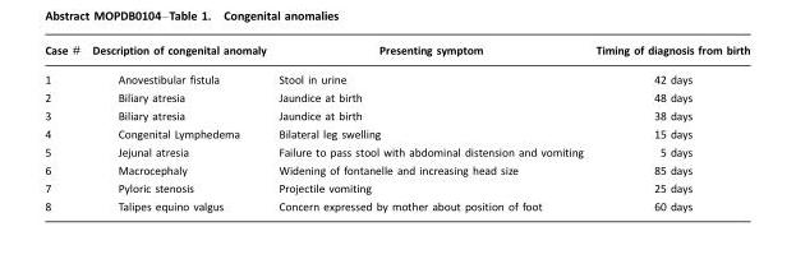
<table><thead><tr><td>Case #</td><td>Description of congenital anomaly</td><td>Presenting symptom</td><td>Timing of diagnosis from birth</td></tr></thead><tbody><tr><td>1</td><td>Anovestibular fistula</td><td>Stool in urine</td><td>42 days</td></tr><tr><td>2</td><td>Biliary atresia</td><td>Jaundice at birth</td><td>48 days</td></tr><tr><td>3</td><td>Biliary atresia</td><td>Jaundice at birth</td><td>38 days</td></tr><tr><td>4</td><td>Congenital Lymphedema</td><td>Bilateral leg swelling</td><td>15 days</td></tr><tr><td>5</td><td>Jejunal atresia</td><td>Failure to pass stool with abdominal distension and vomiting</td><td>5 days</td></tr><tr><td>6</td><td>Macrocephaly</td><td>Widening of fontanelle and increasing head size</td><td>85 days</td></tr><tr><td>7</td><td>Pyloric stenosis</td><td>Projectile vomiting</td><td>25 days</td></tr><tr><td>8</td><td>Talipes equino valgus</td><td>Concern expressed by mother about position of foot</td><td>60 days</td></tr></tbody></table>